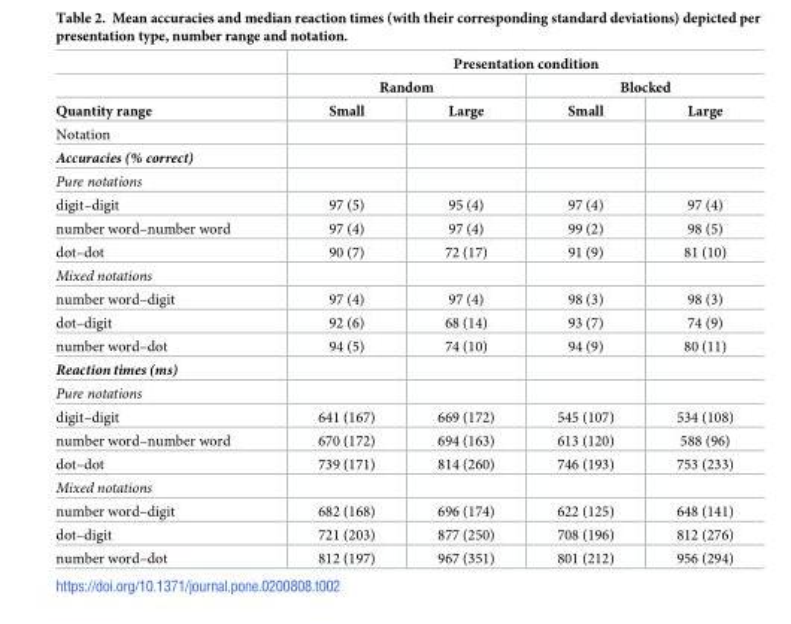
<table><thead><tr><td rowspan="3">Quantity range</td><td colspan="4">Presentation condition</td></tr><tr><td colspan="2">Random</td><td colspan="2">Blocked</td></tr><tr><td>Small</td><td>Large</td><td>Small</td><td>Large</td></tr></thead><tbody><tr><td colspan="5">Notation</td></tr><tr><td colspan="5">Accuracies (% correct)</td></tr><tr><td colspan="5">Pure notations</td></tr><tr><td>digit–digit</td><td>97 (5)</td><td>95 (4)</td><td>97 (4)</td><td>97 (4)</td></tr><tr><td>number word–number word</td><td>97 (4)</td><td>97 (4)</td><td>99 (2)</td><td>98 (5)</td></tr><tr><td>dot–dot</td><td>90 (7)</td><td>72 (17)</td><td>91 (9)</td><td>81 (10)</td></tr><tr><td colspan="5">Mixed notations</td></tr><tr><td>number word–digit</td><td>97 (4)</td><td>97 (4)</td><td>98 (3)</td><td>98 (3)</td></tr><tr><td>dot–digit</td><td>92 (6)</td><td>68 (14)</td><td>93 (7)</td><td>74 (9)</td></tr><tr><td>number word–dot</td><td>94 (5)</td><td>74 (10)</td><td>94 (9)</td><td>80 (11)</td></tr><tr><td colspan="5">Reaction times (ms)</td></tr><tr><td colspan="5">Pure notations</td></tr><tr><td>digit–digit</td><td>641 (167)</td><td>669 (172)</td><td>545 (107)</td><td>534 (108)</td></tr><tr><td>number word–number word</td><td>670 (172)</td><td>694 (163)</td><td>613 (120)</td><td>588 (96)</td></tr><tr><td>dot–dot</td><td>739 (171)</td><td>814 (260)</td><td>746 (193)</td><td>753 (233)</td></tr><tr><td colspan="5">Mixed notations</td></tr><tr><td>number word–digit</td><td>682 (168)</td><td>696 (174)</td><td>622 (125)</td><td>648 (141)</td></tr><tr><td>dot–digit</td><td>721 (203)</td><td>877 (250)</td><td>708 (196)</td><td>812 (276)</td></tr><tr><td>number word–dot</td><td>812 (197)</td><td>967 (351)</td><td>801 (212)</td><td>956 (294)</td></tr></tbody></table>